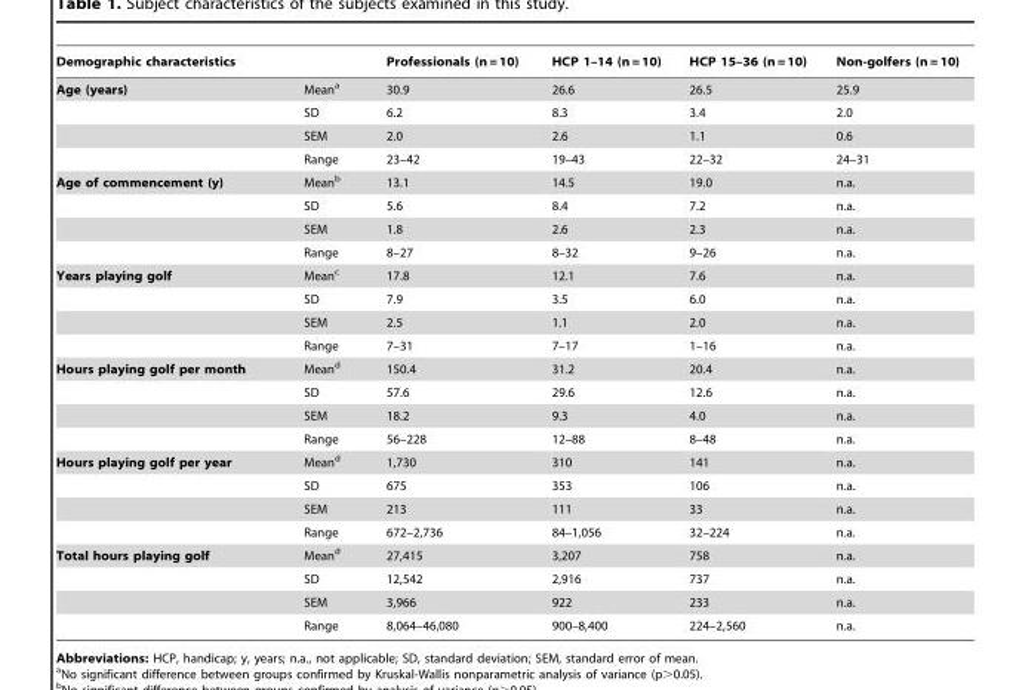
<table><thead><tr><td colspan="2">Demographic characteristics</td><td rowspan="2">Professionals (n = 10) 30.9</td><td rowspan="2">HCP 1–14 (n = 10) 26.6</td><td rowspan="2">HCP 15–36 (n = 10) 26.5</td><td rowspan="2">Non-golfers (n = 10) 25.9</td></tr><tr><td>Age (years)</td><td>Mean<sup>a</sup></td></tr></thead><tbody><tr><td></td><td>SD</td><td>6.2</td><td>8.3</td><td>3.4</td><td>2.0</td></tr><tr><td></td><td>SEM</td><td>2.0</td><td>2.6</td><td>1.1</td><td>0.6</td></tr><tr><td></td><td>Range</td><td>23–42</td><td>19–43</td><td>22–32</td><td>24–31</td></tr><tr><td rowspan="4">Age of commencement (y)</td><td>Mean<sup>b</sup></td><td>13.1</td><td>14.5</td><td>19.0</td><td>n.a.</td></tr><tr><td>SD</td><td>5.6</td><td>8.4</td><td>7.2</td><td>n.a.</td></tr><tr><td>SEM</td><td>1.8</td><td>2.6</td><td>2.3</td><td>n.a.</td></tr><tr><td>Range</td><td>8–27</td><td>8–32</td><td>9–26</td><td>n.a.</td></tr><tr><td rowspan="4">Years playing golf</td><td>Mean<sup>c</sup></td><td>17.8</td><td>12.1</td><td>7.6</td><td>n.a.</td></tr><tr><td>SD</td><td>7.9</td><td>3.5</td><td>6.0</td><td>n.a.</td></tr><tr><td>SEM</td><td>2.5</td><td>1.1</td><td>2.0</td><td>n.a.</td></tr><tr><td>Range</td><td>7–31</td><td>7–17</td><td>1–16</td><td>n.a.</td></tr><tr><td rowspan="4">Hours playing golf per month</td><td>Mean<sup>d</sup></td><td>150.4</td><td>31.2</td><td>20.4</td><td>n.a.</td></tr><tr><td>SD</td><td>57.6</td><td>29.6</td><td>12.6</td><td>n.a.</td></tr><tr><td>SEM</td><td>18.2</td><td>9.3</td><td>4.0</td><td>n.a.</td></tr><tr><td>Range</td><td>56–228</td><td>12–88</td><td>8–48</td><td>n.a.</td></tr><tr><td rowspan="4">Hours playing golf per year</td><td>Mean<sup>d</sup></td><td>1,730</td><td>310</td><td>141</td><td>n.a.</td></tr><tr><td>SD</td><td>675</td><td>353</td><td>106</td><td>n.a.</td></tr><tr><td>SEM</td><td>213</td><td>111</td><td>33</td><td>n.a.</td></tr><tr><td>Range</td><td>672–2,736</td><td>84–1,056</td><td>32–224</td><td>n.a.</td></tr><tr><td rowspan="4">Total hours playing golf</td><td>Mean<sup>d</sup></td><td>27,415</td><td>3,207</td><td>758</td><td>n.a.</td></tr><tr><td>SD</td><td>12,542</td><td>2,916</td><td>737</td><td>n.a.</td></tr><tr><td>SEM</td><td>3,966</td><td>922</td><td>233</td><td>n.a.</td></tr><tr><td>Range</td><td>8,064–46,080</td><td>900–8,400</td><td>224–2,560</td><td>n.a.</td></tr></tbody></table>